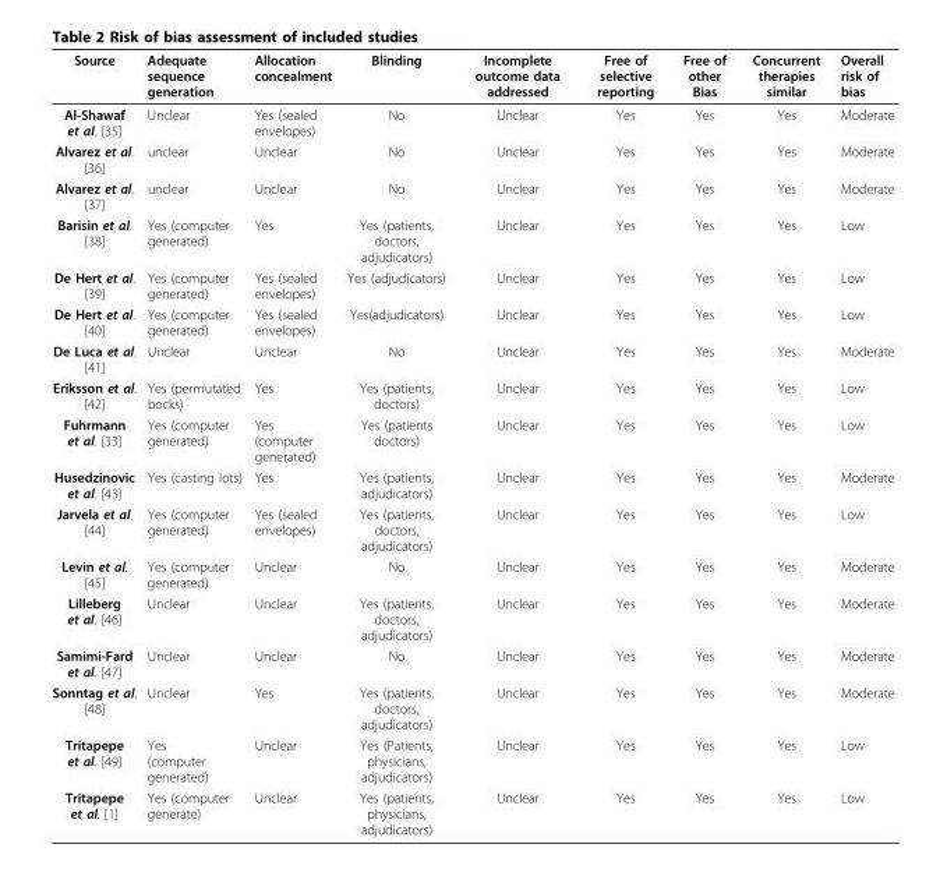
<table><thead><tr><td>Source</td><td>Adequate sequence generation</td><td>Allocation concealment</td><td>Blinding</td><td>Incomplete outcome data addressed</td><td>Free of selective reporting</td><td>Free of other Bias</td><td>Concurrent therapies similar</td><td>Overall risk of bias</td></tr></thead><tbody><tr><td>Al-Shawaf et al. [35]</td><td>Unclear</td><td>Yes (sealed envelopes)</td><td>No</td><td>Unclear</td><td>Yes</td><td>Yes</td><td>Yes</td><td>Moderate</td></tr><tr><td>Alvarez et al. [36]</td><td>unclear</td><td>Unclear</td><td>No</td><td>Unclear</td><td>Yes</td><td>Yes</td><td>Yes</td><td>Moderate</td></tr><tr><td>Alvarez et al. [37]</td><td>unclear</td><td>Unclear</td><td>No</td><td>Unclear</td><td>Yes</td><td>Yes</td><td>Yes</td><td>Moderate</td></tr><tr><td>Barisin et al. [38]</td><td>Yes (computer generated)</td><td>Yes</td><td>Yes (patients, doctors, adjudicators)</td><td>Unclear</td><td>Yes</td><td>Yes</td><td>Yes</td><td>Low</td></tr><tr><td>De Hert et al. [39]</td><td>Yes (computer generated)</td><td>Yes (sealed envelopes)</td><td>Yes (adjudicators)</td><td>Unclear</td><td>Yes</td><td>Yes</td><td>Yes</td><td>Low</td></tr><tr><td>De Hert et al. [40]</td><td>Yes (computer generated)</td><td>Yes (sealed envelopes)</td><td>Yes(adjudicators)</td><td>Unclear</td><td>Yes</td><td>Yes</td><td>Yes</td><td>Low</td></tr><tr><td>De Luca et al. [41]</td><td>Unclear</td><td>Unclear</td><td>No</td><td>Unclear</td><td>Yes</td><td>Yes</td><td>Yes</td><td>Moderate</td></tr><tr><td>Eriksson et al. [42]</td><td>Yes (permutated bocks)</td><td>Yes</td><td>Yes (patients, doctors)</td><td>Unclear</td><td>Yes</td><td>Yes</td><td>Yes</td><td>Low</td></tr><tr><td>Fuhrmann et al. [33]</td><td>Yes (computer generated)</td><td>Yes (computer generated)</td><td>Yes (patients doctors)</td><td>Unclear</td><td>Yes</td><td>Yes</td><td>Yes</td><td>Low</td></tr><tr><td>Husedzinovic et al. [43]</td><td>Yes (casting lots)</td><td>Yes</td><td>Yes (patients, adjudicators)</td><td>Unclear</td><td>Yes</td><td>Yes</td><td>Yes</td><td>Moderate</td></tr><tr><td>Jarvela et al. [44]</td><td>Yes (computer generated)</td><td>Yes (sealed envelopes)</td><td>Yes (patients, doctors, adjudicators)</td><td>Unclear</td><td>Yes</td><td>Yes</td><td>Yes</td><td>Low</td></tr><tr><td>Levin et al. [45]</td><td>Yes (computer generated)</td><td>Unclear</td><td>No</td><td>Unclear</td><td>Yes</td><td>Yes</td><td>Yes</td><td>Moderate</td></tr><tr><td>Lilleberg et al. [46]</td><td>Unclear</td><td>Unclear</td><td>Yes (patients, doctors, adjudicators)</td><td>Unclear</td><td>Yes</td><td>Yes</td><td>Yes</td><td>Moderate</td></tr><tr><td>Samimi-Fard et al. [47]</td><td>Unclear</td><td>Unclear</td><td>No</td><td>Unclear</td><td>Yes</td><td>Yes</td><td>Yes</td><td>Moderate</td></tr><tr><td>Sonntag et al. [48]</td><td>Unclear</td><td>Yes</td><td>Yes (patients, doctors, adjudicators)</td><td>Unclear</td><td>Yes</td><td>Yes</td><td>Yes</td><td>Moderate</td></tr><tr><td>Tritapepe et al. [49]</td><td>Yes (computer generated)</td><td>Unclear</td><td>Yes (Patients, physicians, adjudicators)</td><td>Unclear</td><td>Yes</td><td>Yes</td><td>Yes</td><td>Low</td></tr><tr><td>Tritapepe et al. [1]</td><td>Yes (computer generate)</td><td>Unclear</td><td>Yes (patients, physicians, adjudicators)</td><td>Unclear</td><td>Yes</td><td>Yes</td><td>Yes</td><td>Low</td></tr></tbody></table>